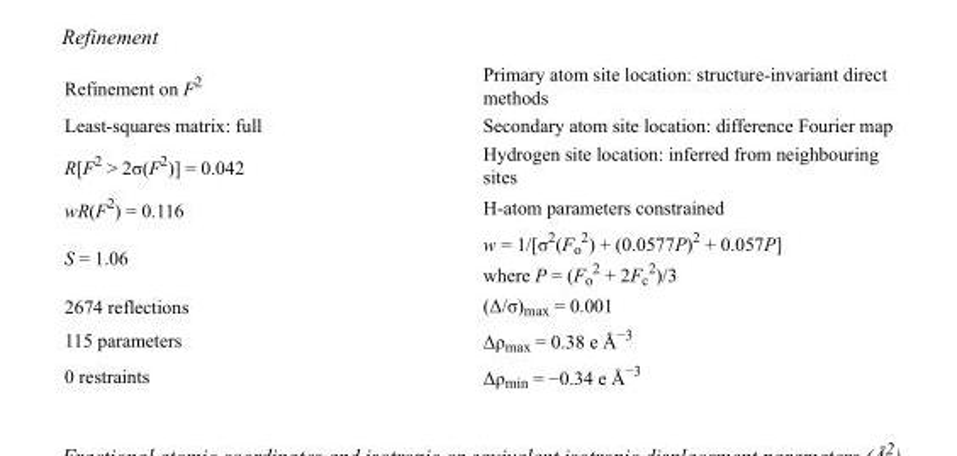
<table><tbody><tr><td>Refinement on F<sup>2</sup></td><td>Primary atom site location: structure-invariant direct methods</td></tr><tr><td>Least-squares matrix: full</td><td>Secondary atom site location: difference Fourier map</td></tr><tr><td>R[F<sup>2</sup> &gt; 2σ(F<sup>2</sup>)] = 0.042</td><td>Hydrogen site location: inferred from neighbouring sites</td></tr><tr><td>wR(F<sup>2</sup>) = 0.116</td><td>H-atom parameters constrained</td></tr><tr><td>S = 1.06</td><td>w = 1/[σ<sup>2</sup>(F<sub>o</sub> <sup>2</sup>) + (0.0577P)<sup>2</sup> + 0.057P] where P = (F<sub>o</sub> <sup>2</sup> + 2F<sub>c</sub> <sup>2</sup>)/3</td></tr><tr><td>2674 reflections</td><td>(Δ/σ)<sub>max</sub> = 0.001</td></tr><tr><td>115 parameters</td><td>Δρ<sub>max</sub> = 0.38 e Å<sup>−3</sup></td></tr><tr><td>0 restraints</td><td>Δρ<sub>min</sub> = −0.34 e Å<sup>−3</sup></td></tr></tbody></table>